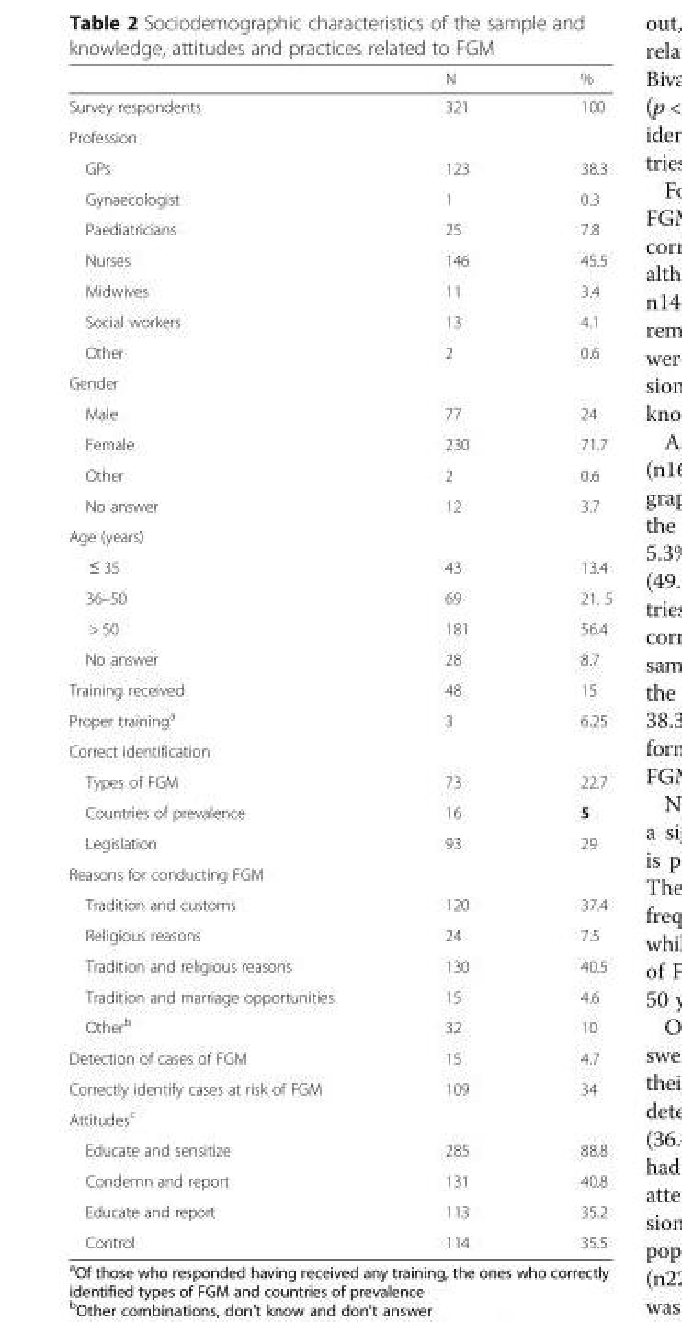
<table><thead><tr><td></td><td>N</td><td>%</td></tr></thead><tbody><tr><td>Survey respondents</td><td>321</td><td>100</td></tr><tr><td colspan="3">Profession</td></tr><tr><td>GPs</td><td>123</td><td>38.3</td></tr><tr><td>Gynaecologist</td><td>1</td><td>0.3</td></tr><tr><td>Paediatricians</td><td>25</td><td>7.8</td></tr><tr><td>Nurses</td><td>146</td><td>45.5</td></tr><tr><td>Midwives</td><td>11</td><td>3.4</td></tr><tr><td>Social workers</td><td>13</td><td>4.1</td></tr><tr><td>Other</td><td>2</td><td>0.6</td></tr><tr><td colspan="3">Gender</td></tr><tr><td>Male</td><td>77</td><td>24</td></tr><tr><td>Female</td><td>230</td><td>71.7</td></tr><tr><td>Other</td><td>2</td><td>0.6</td></tr><tr><td>No answer</td><td>12</td><td>3.7</td></tr><tr><td colspan="3">Age (years)</td></tr><tr><td>≤ 35</td><td>43</td><td>13.4</td></tr><tr><td>36–50</td><td>69</td><td>21. 5</td></tr><tr><td>&gt; 50</td><td>181</td><td>56.4</td></tr><tr><td>No answer</td><td>28</td><td>8.7</td></tr><tr><td>Training received</td><td>48</td><td>15</td></tr><tr><td>Proper training<sup>a</sup></td><td>3</td><td>6.25</td></tr><tr><td colspan="3">Correct identification</td></tr><tr><td>Types of FGM</td><td>73</td><td>22.7</td></tr><tr><td>Countries of prevalence</td><td>16</td><td>5</td></tr><tr><td>Legislation</td><td>93</td><td>29</td></tr><tr><td colspan="3">Reasons for conducting FGM</td></tr><tr><td>Tradition and customs</td><td>120</td><td>37.4</td></tr><tr><td>Religious reasons</td><td>24</td><td>7.5</td></tr><tr><td>Tradition and religious reasons</td><td>130</td><td>40.5</td></tr><tr><td>Tradition and marriage opportunities</td><td>15</td><td>4.6</td></tr><tr><td>Other<sup>b</sup></td><td>32</td><td>10</td></tr><tr><td>Detection of cases of FGM</td><td>15</td><td>4.7</td></tr><tr><td>Correctly identify cases at risk of FGM</td><td>109</td><td>34</td></tr><tr><td colspan="3">Attitudes<sup>c</sup></td></tr><tr><td>Educate and sensitize</td><td>285</td><td>88.8</td></tr><tr><td>Condemn and report</td><td>131</td><td>40.8</td></tr><tr><td>Educate and report</td><td>113</td><td>35.2</td></tr><tr><td>Control</td><td>114</td><td>35.5</td></tr></tbody></table>